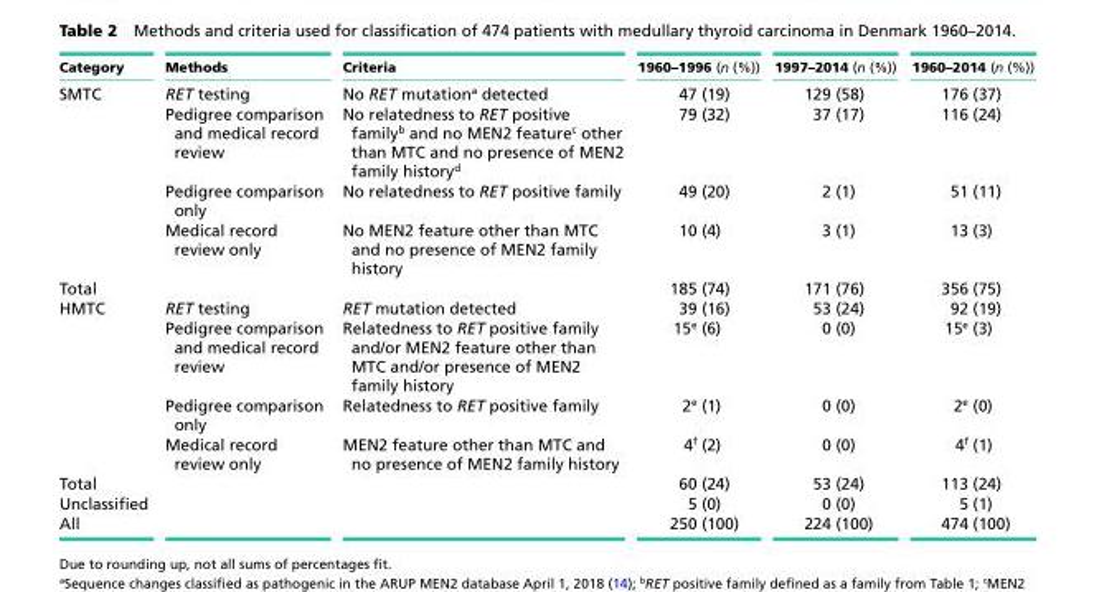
<table><thead><tr><td>Category</td><td>Methods</td><td>Criteria</td><td>1960–1996 (n (%))</td><td>1997–2014 (n (%))</td><td>1960–2014 (n (%))</td></tr></thead><tbody><tr><td rowspan="4">SMTC</td><td>RET testing</td><td>No RET mutation<sup>a</sup> detected</td><td>47 (19)</td><td>129 (58)</td><td>176 (37)</td></tr><tr><td>Pedigree comparison and medical record review</td><td>No relatedness to RET positive family<sup>b</sup> and no MEN2 feature<sup>c</sup> other than MTC and no presence of MEN2 family history<sup>d</sup></td><td>79 (32)</td><td>37 (17)</td><td>116 (24)</td></tr><tr><td>Pedigree comparison only</td><td>No relatedness to RET positive family</td><td>49 (20)</td><td>2 (1)</td><td>51 (11)</td></tr><tr><td>Medical record review only</td><td>No MEN2 feature other than MTC and no presence of MEN2 family history</td><td>10 (4)</td><td>3 (1)</td><td>13 (3)</td></tr><tr><td>Total</td><td></td><td></td><td>185 (74)</td><td>171 (76)</td><td>356 (75)</td></tr><tr><td rowspan="4">HMTC</td><td>RET testing</td><td>RET mutation detected</td><td>39 (16)</td><td>53 (24)</td><td>92 (19)</td></tr><tr><td>Pedigree comparison and medical record review</td><td>Relatedness to RET positive family and/or MEN2 feature other than MTC and/or presence of MEN2 family history</td><td>15<sup>e</sup> (6)</td><td>0 (0)</td><td>15<sup>e</sup> (3)</td></tr><tr><td>Pedigree comparison only</td><td>Relatedness to RET positive family</td><td>2<sup>e</sup> (1)</td><td>0 (0)</td><td>2<sup>e</sup> (0)</td></tr><tr><td>Medical record review only</td><td>MEN2 feature other than MTC and no presence of MEN2 family history</td><td>4<sup>f</sup> (2)</td><td>0 (0)</td><td>4<sup>f</sup> (1)</td></tr><tr><td>Total</td><td></td><td></td><td>60 (24)</td><td>53 (24)</td><td>113 (24)</td></tr><tr><td>Unclassified</td><td></td><td></td><td>5 (0)</td><td>0 (0)</td><td>5 (1)</td></tr><tr><td>All</td><td></td><td></td><td>250 (100)</td><td>224 (100)</td><td>474 (100)</td></tr></tbody></table>